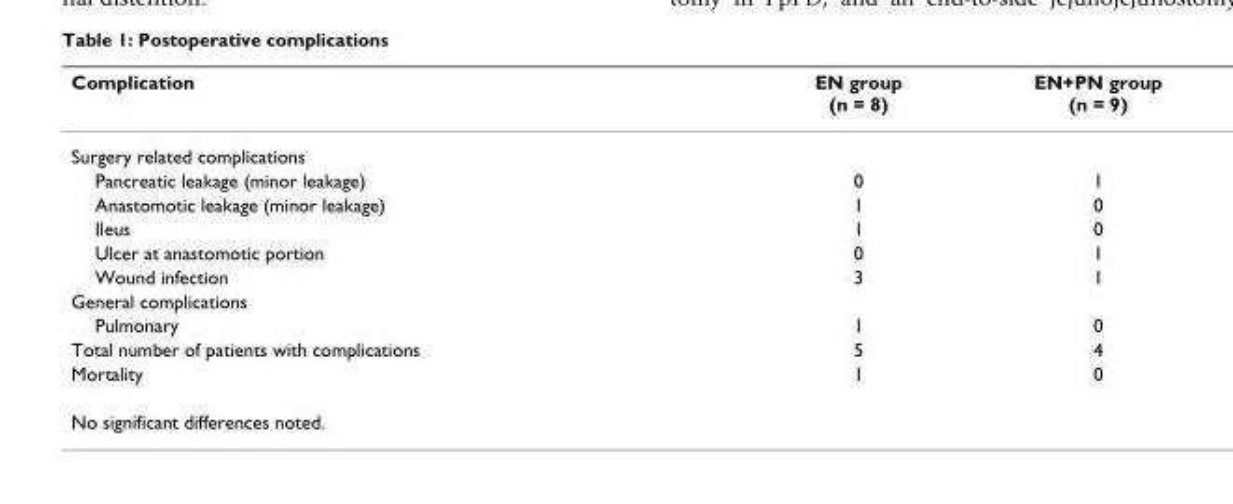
<table><thead><tr><td>Complication</td><td>EN group (n = 8)</td><td>EN+PN group (n = 9)</td></tr></thead><tbody><tr><td colspan="3">Surgery related complications</td></tr><tr><td>Pancreatic leakage (minor leakage)</td><td>0</td><td>1</td></tr><tr><td>Anastomotic leakage (minor leakage)</td><td>1</td><td>0</td></tr><tr><td>Ileus</td><td>1</td><td>0</td></tr><tr><td>Ulcer at anastomotic portion</td><td>0</td><td>1</td></tr><tr><td>Wound infection</td><td>3</td><td>1</td></tr><tr><td colspan="3">General complications</td></tr><tr><td>Pulmonary</td><td>1</td><td>0</td></tr><tr><td>Total number of patients with complications</td><td>5</td><td>4</td></tr><tr><td>Mortality</td><td>1</td><td>0</td></tr><tr><td>No significant differences noted.</td><td></td><td></td></tr></tbody></table>